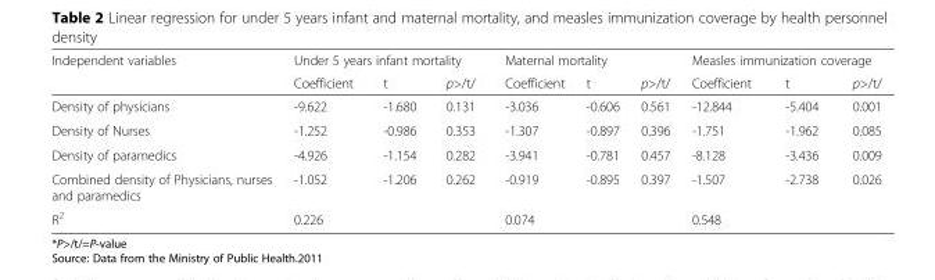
<table><thead><tr><td rowspan="2">Independent variables</td><td colspan="3">Under 5 years infant mortality</td><td colspan="3">Maternal mortality</td><td colspan="3">Measles immunization coverage</td></tr><tr><td>Coefficient</td><td>t</td><td>p&gt;/t/</td><td>Coefficient</td><td>t</td><td>p&gt;/t/</td><td>Coefficient</td><td>t</td><td>p&gt;/t/</td></tr></thead><tbody><tr><td>Density of physicians</td><td>-9.622</td><td>-1.680</td><td>0.131</td><td>-3.036</td><td>-0.606</td><td>0.561</td><td>-12.844</td><td>-5.404</td><td>0.001</td></tr><tr><td>Density of Nurses</td><td>-1.252</td><td>-0.986</td><td>0.353</td><td>-1.307</td><td>-0.897</td><td>0.396</td><td>-1.751</td><td>-1.962</td><td>0.085</td></tr><tr><td>Density of paramedics</td><td>-4.926</td><td>-1.154</td><td>0.282</td><td>-3.941</td><td>-0.781</td><td>0.457</td><td>-8.128</td><td>-3.436</td><td>0.009</td></tr><tr><td>Combined density of Physicians, nurses and paramedics</td><td>-1.052</td><td>-1.206</td><td>0.262</td><td>-0.919</td><td>-0.895</td><td>0.397</td><td>-1.507</td><td>-2.738</td><td>0.026</td></tr><tr><td>R<sup>2</sup></td><td colspan="3">0.226</td><td colspan="3">0.074</td><td colspan="3">0.548</td></tr></tbody></table>